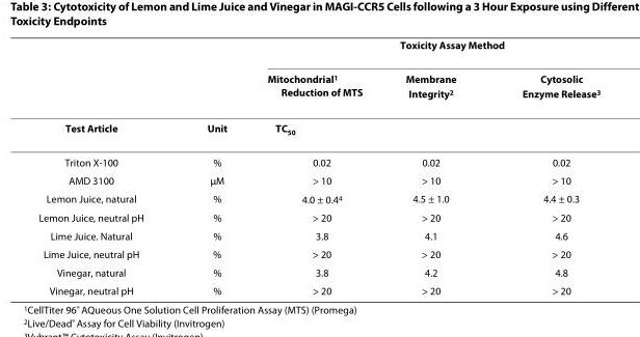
<table><thead><tr><td rowspan="2"></td><td rowspan="2"></td><td colspan="3">Toxicity Assay Method</td></tr><tr><td>Mitochondrial<sup>1</sup> Reduction of MTS</td><td>Membrane Integrity<sup>2</sup></td><td>Cytosolic Enzyme Release<sup>3</sup></td></tr></thead><tbody><tr><td>Test Article</td><td>Unit</td><td colspan="3">TC<sub>50</sub></td></tr><tr><td>Triton X-100</td><td>%</td><td>0.02</td><td>0.02</td><td>0.02</td></tr><tr><td>AMD 3100</td><td>μM</td><td>&gt; 10</td><td>&gt; 10</td><td>&gt; 10</td></tr><tr><td>Lemon Juice, natural</td><td>%</td><td>4.0 ± 0.4<sup>4</sup></td><td>4.5 ± 1.0</td><td>4.4 ± 0.3</td></tr><tr><td>Lemon Juice, neutral pH</td><td>%</td><td>&gt; 20</td><td>&gt; 20</td><td>&gt; 20</td></tr><tr><td>Lime Juice. Natural</td><td>%</td><td>3.8</td><td>4.1</td><td>4.6</td></tr><tr><td>Lime Juice, neutral pH</td><td>%</td><td>&gt; 20</td><td>&gt; 20</td><td>&gt; 20</td></tr><tr><td>Vinegar, natural</td><td>%</td><td>3.8</td><td>4.2</td><td>4.8</td></tr><tr><td>Vinegar, neutral pH</td><td>%</td><td>&gt; 20</td><td>&gt; 20</td><td>&gt; 20</td></tr></tbody></table>